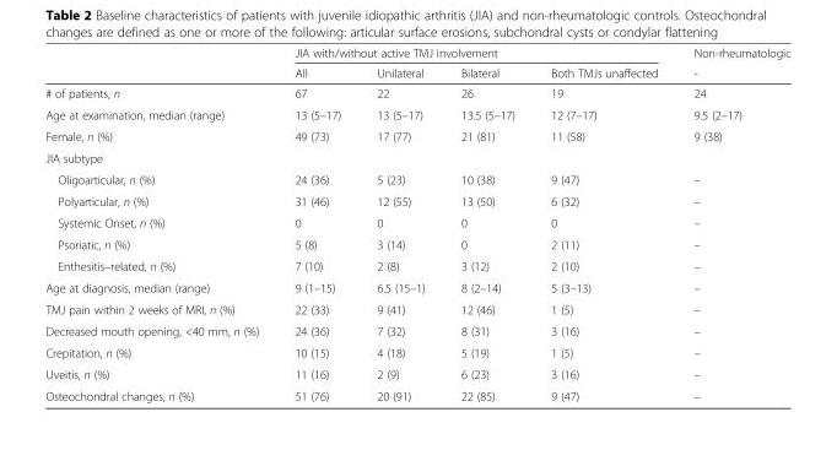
<table><thead><tr><td rowspan="2"></td><td colspan="4">JIA with/without active TMJ involvement</td><td rowspan="2">Non-rheumatologic -</td></tr><tr><td>All</td><td>Unilateral</td><td>Bilateral</td><td>Both TMJs unaffected</td></tr></thead><tbody><tr><td># of patients, n</td><td>67</td><td>22</td><td>26</td><td>19</td><td>24</td></tr><tr><td>Age at examination, median (range)</td><td>13 (5–17)</td><td>13 (5–17)</td><td>13.5 (5–17)</td><td>12 (7–17)</td><td>9.5 (2–17)</td></tr><tr><td>Female, n (%)</td><td>49 (73)</td><td>17 (77)</td><td>21 (81)</td><td>11 (58)</td><td>9 (38)</td></tr><tr><td colspan="6">JIA subtype</td></tr><tr><td>Oligoarticular, n (%)</td><td>24 (36)</td><td>5 (23)</td><td>10 (38)</td><td>9 (47)</td><td>–</td></tr><tr><td>Polyarticular, n (%)</td><td>31 (46)</td><td>12 (55)</td><td>13 (50)</td><td>6 (32)</td><td>–</td></tr><tr><td>Systemic Onset, n (%)</td><td>0</td><td>0</td><td>0</td><td>0</td><td>–</td></tr><tr><td>Psoriatic, n (%)</td><td>5 (8)</td><td>3 (14)</td><td>0</td><td>2 (11)</td><td>–</td></tr><tr><td>Enthesitis–related, n (%)</td><td>7 (10)</td><td>2 (8)</td><td>3 (12)</td><td>2 (10)</td><td>–</td></tr><tr><td>Age at diagnosis, median (range)</td><td>9 (1–15)</td><td>6.5 (15–1)</td><td>8 (2–14)</td><td>5 (3–13)</td><td>–</td></tr><tr><td>TMJ pain within 2 weeks of MRI, n (%)</td><td>22 (33)</td><td>9 (41)</td><td>12 (46)</td><td>1 (5)</td><td>–</td></tr><tr><td>Decreased mouth opening, &lt;40 mm, n (%)</td><td>24 (36)</td><td>7 (32)</td><td>8 (31)</td><td>3 (16)</td><td>–</td></tr><tr><td>Crepitation, n (%)</td><td>10 (15)</td><td>4 (18)</td><td>5 (19)</td><td>1 (5)</td><td>–</td></tr><tr><td>Uveitis, n (%)</td><td>11 (16)</td><td>2 (9)</td><td>6 (23)</td><td>3 (16)</td><td>–</td></tr><tr><td>Osteochondral changes, n (%)</td><td>51 (76)</td><td>20 (91)</td><td>22 (85)</td><td>9 (47)</td><td>–</td></tr></tbody></table>